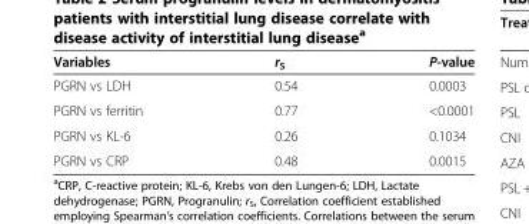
<table><thead><tr><td>Variables</td><td>r<sub>S</sub></td><td>P-value</td></tr></thead><tbody><tr><td>PGRN vs LDH</td><td>0.54</td><td>0.0003</td></tr><tr><td>PGRN vs ferritin</td><td>0.77</td><td>&lt;0.0001</td></tr><tr><td>PGRN vs KL-6</td><td>0.26</td><td>0.1034</td></tr><tr><td>PGRN vs CRP</td><td>0.48</td><td>0.0015</td></tr></tbody></table>